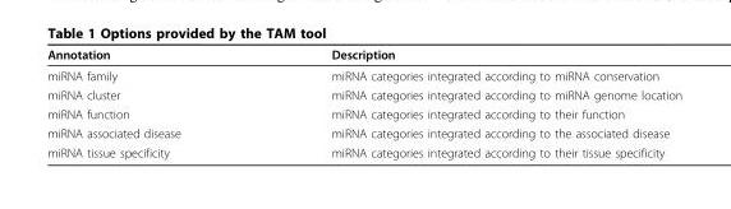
<table><thead><tr><td>Annotation</td><td>Description</td></tr></thead><tbody><tr><td>miRNA family</td><td>miRNA categories integrated according to miRNA conservation</td></tr><tr><td>miRNA cluster</td><td>miRNA categories integrated according to miRNA genome location</td></tr><tr><td>miRNA function</td><td>miRNA categories integrated according to their function</td></tr><tr><td>miRNA associated disease</td><td>miRNA categories integrated according to the associated disease</td></tr><tr><td>miRNA tissue specificity</td><td>miRNA categories integrated according to their tissue specificity</td></tr></tbody></table>